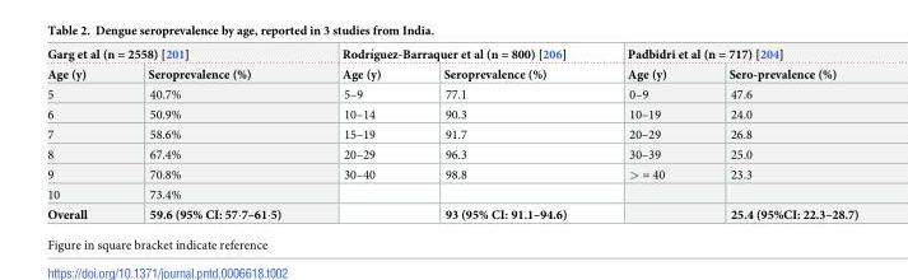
<table><thead><tr><td colspan="2">Garg et al (n = 2558) [201]</td><td colspan="2">Rodrı´guez-Barraquer et al (n = 800) [206]</td><td colspan="2">Padbidri et al (n = 717) [204]</td></tr><tr><td>Age (y)</td><td>Seroprevalence (%)</td><td>Age (y)</td><td>Seroprevalence (%)</td><td>Age (y)</td><td>Sero-prevalence (%)</td></tr></thead><tbody><tr><td>5</td><td>40.7%</td><td>5–9</td><td>77.1</td><td>0–9</td><td>47.6</td></tr><tr><td>6</td><td>50.9%</td><td>10–14</td><td>90.3</td><td>10–19</td><td>24.0</td></tr><tr><td>7</td><td>58.6%</td><td>15–19</td><td>91.7</td><td>20–29</td><td>26.8</td></tr><tr><td>8</td><td>67.4%</td><td>20–29</td><td>96.3</td><td>30–39</td><td>25.0</td></tr><tr><td>9</td><td>70.8%</td><td>30–40</td><td>98.8</td><td>&gt; = 40</td><td>23.3</td></tr><tr><td>10</td><td>73.4%</td><td></td><td></td><td></td><td></td></tr><tr><td>Overall</td><td>59.6 (95% CI: 57·7–61·5)</td><td></td><td>93 (95% CI: 91.1–94.6)</td><td></td><td>25.4 (95%CI: 22.3–28.7)</td></tr></tbody></table>